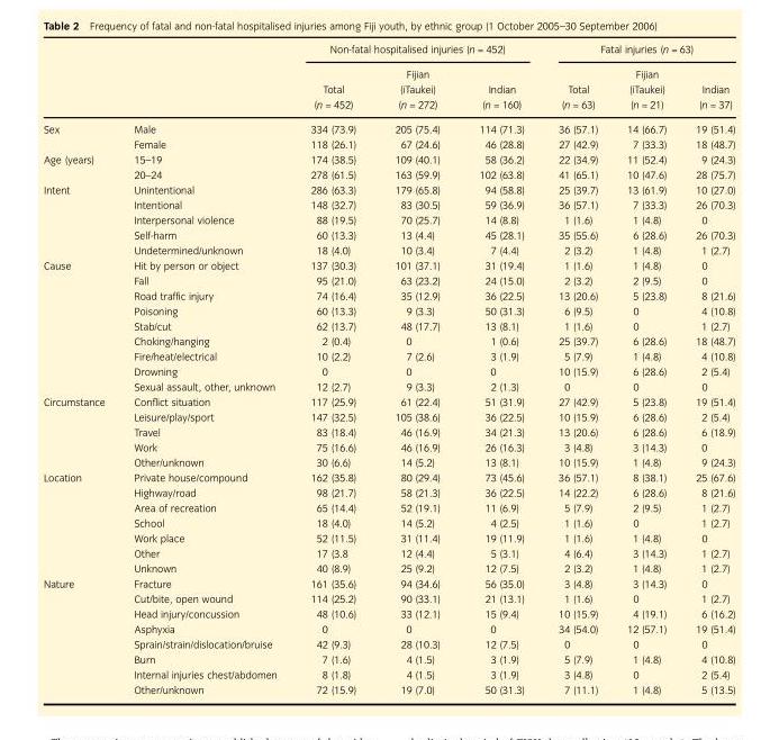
<table><thead><tr><td rowspan="2"></td><td rowspan="2"></td><td colspan="3">Non‐fatal hospitalised injuries (n = 452)</td><td colspan="3">Fatal injuries (n = 63)</td></tr><tr><td>Total (n = 452)</td><td>Fijian (iTaukei) (n = 272)</td><td>Indian (n = 160)</td><td>Total (n = 63)</td><td>Fijian (iTaukei) (n = 21)</td><td>Indian (n = 37)</td></tr></thead><tbody><tr><td rowspan="2">Sex</td><td>Male</td><td>334 (73.9)</td><td>205 (75.4)</td><td>114 (71.3)</td><td>36 (57.1)</td><td>14 (66.7)</td><td>19 (51.4)</td></tr><tr><td>Female</td><td>118 (26.1)</td><td>67 (24.6)</td><td>46 (28.8)</td><td>27 (42.9)</td><td>7 (33.3)</td><td>18 (48.7)</td></tr><tr><td rowspan="2">Age (years)</td><td>15–19</td><td>174 (38.5)</td><td>109 (40.1)</td><td>58 (36.2)</td><td>22 (34.9)</td><td>11 (52.4)</td><td>9 (24.3)</td></tr><tr><td>20–24</td><td>278 (61.5)</td><td>163 (59.9)</td><td>102 (63.8)</td><td>41 (65.1)</td><td>10 (47.6)</td><td>28 (75.7)</td></tr><tr><td rowspan="5">Intent</td><td>Unintentional</td><td>286 (63.3)</td><td>179 (65.8)</td><td>94 (58.8)</td><td>25 (39.7)</td><td>13 (61.9)</td><td>10 (27.0)</td></tr><tr><td>Intentional</td><td>148 (32.7)</td><td>83 (30.5)</td><td>59 (36.9)</td><td>36 (57.1)</td><td>7 (33.3)</td><td>26 (70.3)</td></tr><tr><td>Interpersonal violence</td><td>88 (19.5)</td><td>70 (25.7)</td><td>14 (8.8)</td><td>1 (1.6)</td><td>1 (4.8)</td><td>0</td></tr><tr><td>Self‐harm</td><td>60 (13.3)</td><td>13 (4.4)</td><td>45 (28.1)</td><td>35 (55.6)</td><td>6 (28.6)</td><td>26 (70.3)</td></tr><tr><td>Undetermined/unknown</td><td>18 (4.0)</td><td>10 (3.4)</td><td>7 (4.4)</td><td>2 (3.2)</td><td>1 (4.8)</td><td>1 (2.7)</td></tr><tr><td rowspan="9">Cause</td><td>Hit by person or object</td><td>137 (30.3)</td><td>101 (37.1)</td><td>31 (19.4)</td><td>1 (1.6)</td><td>1 (4.8)</td><td>0</td></tr><tr><td>Fall</td><td>95 (21.0)</td><td>63 (23.2)</td><td>24 (15.0)</td><td>2 (3.2)</td><td>2 (9.5)</td><td>0</td></tr><tr><td>Road traffic injury</td><td>74 (16.4)</td><td>35 (12.9)</td><td>36 (22.5)</td><td>13 (20.6)</td><td>5 (23.8)</td><td>8 (21.6)</td></tr><tr><td>Poisoning</td><td>60 (13.3)</td><td>9 (3.3)</td><td>50 (31.3)</td><td>6 (9.5)</td><td>0</td><td>4 (10.8)</td></tr><tr><td>Stab/cut</td><td>62 (13.7)</td><td>48 (17.7)</td><td>13 (8.1)</td><td>1 (1.6)</td><td>0</td><td>1 (2.7)</td></tr><tr><td>Choking/hanging</td><td>2 (0.4)</td><td>0</td><td>1 (0.6)</td><td>25 (39.7)</td><td>6 (28.6)</td><td>18 (48.7)</td></tr><tr><td>Fire/heat/electrical</td><td>10 (2.2)</td><td>7 (2.6)</td><td>3 (1.9)</td><td>5 (7.9)</td><td>1 (4.8)</td><td>4 (10.8)</td></tr><tr><td>Drowning</td><td>0</td><td>0</td><td>0</td><td>10 (15.9)</td><td>6 (28.6)</td><td>2 (5.4)</td></tr><tr><td>Sexual assault, other, unknown</td><td>12 (2.7)</td><td>9 (3.3)</td><td>2 (1.3)</td><td>0</td><td>0</td><td>0</td></tr><tr><td rowspan="5">Circumstance</td><td>Conflict situation</td><td>117 (25.9)</td><td>61 (22.4)</td><td>51 (31.9)</td><td>27 (42.9)</td><td>5 (23.8)</td><td>19 (51.4)</td></tr><tr><td>Leisure/play/sport</td><td>147 (32.5)</td><td>105 (38.6)</td><td>36 (22.5)</td><td>10 (15.9)</td><td>6 (28.6)</td><td>2 (5.4)</td></tr><tr><td>Travel</td><td>83 (18.4)</td><td>46 (16.9)</td><td>34 (21.3)</td><td>13 (20.6)</td><td>6 (28.6)</td><td>6 (18.9)</td></tr><tr><td>Work</td><td>75 (16.6)</td><td>46 (16.9)</td><td>26 (16.3)</td><td>3 (4.8)</td><td>3 (14.3)</td><td>0</td></tr><tr><td>Other/unknown</td><td>30 (6.6)</td><td>14 (5.2)</td><td>13 (8.1)</td><td>10 (15.9)</td><td>1 (4.8)</td><td>9 (24.3)</td></tr><tr><td rowspan="7">Location</td><td>Private house/compound</td><td>162 (35.8)</td><td>80 (29.4)</td><td>73 (45.6)</td><td>36 (57.1)</td><td>8 (38.1)</td><td>25 (67.6)</td></tr><tr><td>Highway/road</td><td>98 (21.7)</td><td>58 (21.3)</td><td>36 (22.5)</td><td>14 (22.2)</td><td>6 (28.6)</td><td>8 (21.6)</td></tr><tr><td>Area of recreation</td><td>65 (14.4)</td><td>52 (19.1)</td><td>11 (6.9)</td><td>5 (7.9)</td><td>2 (9.5)</td><td>1 (2.7)</td></tr><tr><td>School</td><td>18 (4.0)</td><td>14 (5.2)</td><td>4 (2.5)</td><td>1 (1.6)</td><td>0</td><td>1 (2.7)</td></tr><tr><td>Work place</td><td>52 (11.5)</td><td>31 (11.4)</td><td>19 (11.9)</td><td>1 (1.6)</td><td>1 (4.8)</td><td>0</td></tr><tr><td>Other</td><td>17 (3.8</td><td>12 (4.4)</td><td>5 (3.1)</td><td>4 (6.4)</td><td>3 (14.3)</td><td>1 (2.7)</td></tr><tr><td>Unknown</td><td>40 (8.9)</td><td>25 (9.2)</td><td>12 (7.5)</td><td>2 (3.2)</td><td>1 (4.8)</td><td>1 (2.7)</td></tr><tr><td rowspan="8">Nature</td><td>Fracture</td><td>161 (35.6)</td><td>94 (34.6)</td><td>56 (35.0)</td><td>3 (4.8)</td><td>3 (14.3)</td><td>0</td></tr><tr><td>Cut/bite, open wound</td><td>114 (25.2)</td><td>90 (33.1)</td><td>21 (13.1)</td><td>1 (1.6)</td><td>0</td><td>1 (2.7)</td></tr><tr><td>Head injury/concussion</td><td>48 (10.6)</td><td>33 (12.1)</td><td>15 (9.4)</td><td>10 (15.9)</td><td>4 (19.1)</td><td>6 (16.2)</td></tr><tr><td>Asphyxia</td><td>0</td><td>0</td><td>0</td><td>34 (54.0)</td><td>12 (57.1)</td><td>19 (51.4)</td></tr><tr><td>Sprain/strain/dislocation/bruise</td><td>42 (9.3)</td><td>28 (10.3)</td><td>12 (7.5)</td><td>0</td><td>0</td><td>0</td></tr><tr><td>Burn</td><td>7 (1.6)</td><td>4 (1.5)</td><td>3 (1.9)</td><td>5 (7.9)</td><td>1 (4.8)</td><td>4 (10.8)</td></tr><tr><td>Internal injuries chest/abdomen</td><td>8 (1.8)</td><td>4 (1.5)</td><td>3 (1.9)</td><td>3 (4.8)</td><td>0</td><td>2 (5.4)</td></tr><tr><td>Other/unknown</td><td>72 (15.9)</td><td>19 (7.0)</td><td>50 (31.3)</td><td>7 (11.1)</td><td>1 (4.8)</td><td>5 (13.5)</td></tr></tbody></table>